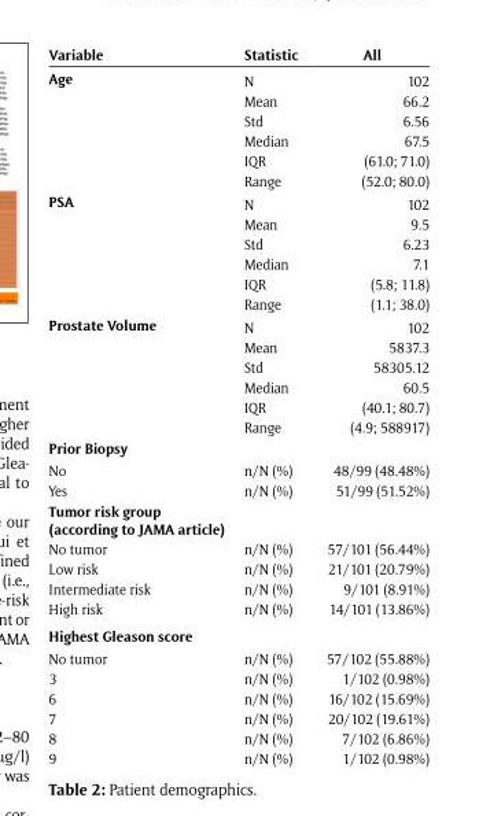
<table><thead><tr><td>Variable</td><td>Statistic</td><td>All</td></tr></thead><tbody><tr><td rowspan="6">Age</td><td>N</td><td>102</td></tr><tr><td>Mean</td><td>66.2</td></tr><tr><td>Std</td><td>6.56</td></tr><tr><td>Median</td><td>67.5</td></tr><tr><td>IQR</td><td>(61.0; 71.0)</td></tr><tr><td>Range</td><td>(52.0; 80.0)</td></tr><tr><td rowspan="6">PSA</td><td>N</td><td>102</td></tr><tr><td>Mean</td><td>9.5</td></tr><tr><td>Std</td><td>6.23</td></tr><tr><td>Median</td><td>7.1</td></tr><tr><td>IQR</td><td>(5.8; 11.8)</td></tr><tr><td>Range</td><td>(1.1; 38.0)</td></tr><tr><td rowspan="6">Prostate Volume</td><td>N</td><td>102</td></tr><tr><td>Mean</td><td>5837.3</td></tr><tr><td>Std</td><td>58305.12</td></tr><tr><td>Median</td><td>60.5</td></tr><tr><td>IQR</td><td>(40.1; 80.7)</td></tr><tr><td>Range</td><td>(4.9; 588917)</td></tr><tr><td colspan="3">Prior Biopsy</td></tr><tr><td>No</td><td>n/N (%)</td><td>48/99 (48.48%)</td></tr><tr><td>Yes</td><td>n/N (%)</td><td>51/99 (51.52%)</td></tr><tr><td colspan="3">Tumor risk group (according to JAMA article)</td></tr><tr><td>No tumor</td><td>n/N (%)</td><td>57/101 (56.44%)</td></tr><tr><td>Low risk</td><td>n/N (%)</td><td>21/101 (20.79%)</td></tr><tr><td>Intermediate risk</td><td>n/N (%)</td><td>9/101 (8.91%)</td></tr><tr><td>High risk</td><td>n/N (%)</td><td>14/101 (13.86%)</td></tr><tr><td colspan="3">Highest Gleason score</td></tr><tr><td>No tumor</td><td>n/N (%)</td><td>57/102 (55.88%)</td></tr><tr><td>3</td><td>n/N (%)</td><td>1/102 (0.98%)</td></tr><tr><td>6</td><td>n/N (%)</td><td>16/102 (15.69%)</td></tr><tr><td>7</td><td>n/N (%)</td><td>20/102 (19.61%)</td></tr><tr><td>8</td><td>n/N (%)</td><td>7/102 (6.86%)</td></tr><tr><td>9</td><td>n/N (%)</td><td>1/102 (0.98%)</td></tr></tbody></table>